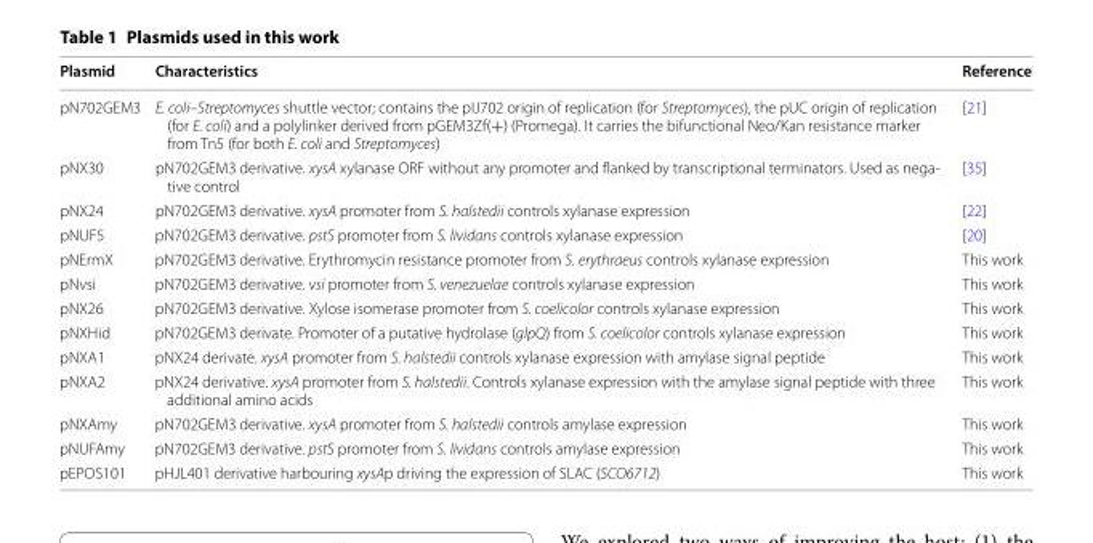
<table><thead><tr><td>Plasmid</td><td>Characteristics</td><td>Reference</td></tr></thead><tbody><tr><td>pN702GEM3</td><td>E. coli–Streptomyces shuttle vector; contains the pIJ702 origin of replication (for Streptomyces), the pUC origin of replication (for E. coli) and a polylinker derived from pGEM3Zf(+) (Promega). It carries the bifunctional Neo/Kan resistance marker from Tn5 (for both E. coli and Streptomyces)</td><td>[21]</td></tr><tr><td>pNX30</td><td>pN702GEM3 derivative. xysA xylanase ORF without any promoter and flanked by transcriptional terminators. Used as nega- tive control</td><td>[35]</td></tr><tr><td>pNX24</td><td>pN702GEM3 derivative. xysA promoter from S. halstedii controls xylanase expression</td><td>[22]</td></tr><tr><td>pNUF5</td><td>pN702GEM3 derivative. pstS promoter from S. lividans controls xylanase expression</td><td>[20]</td></tr><tr><td>pNErmX</td><td>pN702GEM3 derivative. Erythromycin resistance promoter from S. erythraeus controls xylanase expression</td><td>This work</td></tr><tr><td>pNvsi</td><td>pN702GEM3 derivative. vsi promoter from S. venezuelae controls xylanase expression</td><td>This work</td></tr><tr><td>pNX26</td><td>pN702GEM3 derivative. Xylose isomerase promoter from S. coelicolor controls xylanase expression</td><td>This work</td></tr><tr><td>pNXHid</td><td>pN702GEM3 derivate. Promoter of a putative hydrolase (glpQ) from S. coelicolor controls xylanase expression</td><td>This work</td></tr><tr><td>pNXA1</td><td>pNX24 derivate. xysA promoter from S. halstedii controls xylanase expression with amylase signal peptide</td><td>This work</td></tr><tr><td>pNXA2</td><td>pNX24 derivative. xysA promoter from S. halstedii. Controls xylanase expression with the amylase signal peptide with three additional amino acids</td><td>This work</td></tr><tr><td>pNXAmy</td><td>pN702GEM3 derivative. xysA promoter from S. halstedii controls amylase expression</td><td>This work</td></tr><tr><td>pNUFAmy</td><td>pN702GEM3 derivative. pstS promoter from S. lividans controls amylase expression</td><td>This work</td></tr><tr><td>pEPOS101</td><td>pHJL401 derivative harbouring xysAp driving the expression of SLAC (SCO6712)</td><td>This work</td></tr></tbody></table>